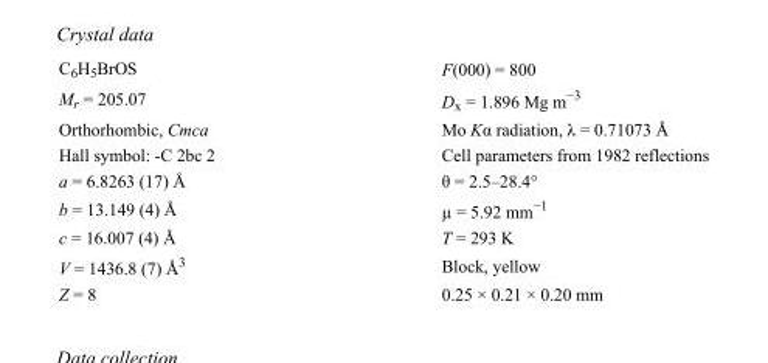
<table><tbody><tr><td>C<sub>6</sub>H<sub>5</sub>BrOS</td><td>F(000) = 800</td></tr><tr><td>M<sub>r</sub> = 205.07</td><td>D<sub>x</sub> = 1.896 Mg m<sup>−3</sup></td></tr><tr><td>Orthorhombic, Cmca</td><td>Mo Kα radiation, λ = 0.71073 Å</td></tr><tr><td>Hall symbol: -C 2bc 2</td><td>Cell parameters from 1982 reflections</td></tr><tr><td>a = 6.8263 (17) Å</td><td>θ = 2.5–28.4°</td></tr><tr><td>b = 13.149 (4) Å</td><td>µ = 5.92 mm<sup>−1</sup></td></tr><tr><td>c = 16.007 (4) Å</td><td>T = 293 K</td></tr><tr><td>V = 1436.8 (7) Å<sup>3</sup></td><td>Block, yellow</td></tr><tr><td>Z = 8</td><td>0.25 × 0.21 × 0.20 mm</td></tr></tbody></table>